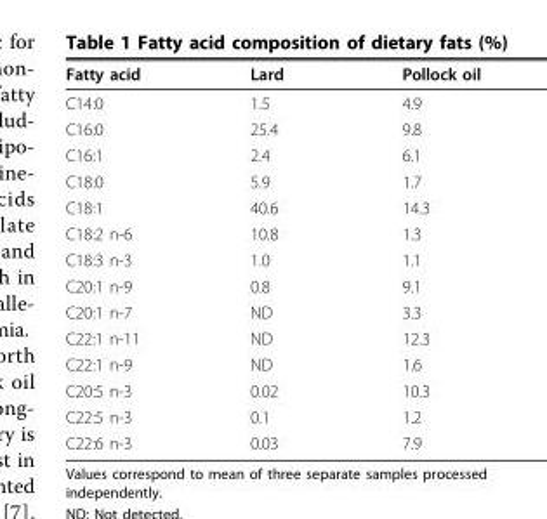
<table><tbody><tr><td>Fatty acid</td><td>Lard</td><td>Pollock oil</td></tr><tr><td>C14:0</td><td>1.5</td><td>4.9</td></tr><tr><td>C16:0</td><td>25.4</td><td>9.8</td></tr><tr><td>C16:1</td><td>2.4</td><td>6.1</td></tr><tr><td>C18:0</td><td>5.9</td><td>1.7</td></tr><tr><td>C18:1</td><td>40.6</td><td>14.3</td></tr><tr><td>C18:2 n-6</td><td>10.8</td><td>1.3</td></tr><tr><td>C18:3 n-3</td><td>1.0</td><td>1.1</td></tr><tr><td>C20:1 n-9</td><td>0.8</td><td>9.1</td></tr><tr><td>C20:1 n-7</td><td>ND</td><td>3.3</td></tr><tr><td>C22:1 n-11</td><td>ND</td><td>12.3</td></tr><tr><td>C22:1 n-9</td><td>ND</td><td>1.6</td></tr><tr><td>C20:5 n-3</td><td>0.02</td><td>10.3</td></tr><tr><td>C22:5 n-3</td><td>0.1</td><td>1.2</td></tr><tr><td>C22:6 n-3</td><td>0.03</td><td>7.9</td></tr></tbody></table>